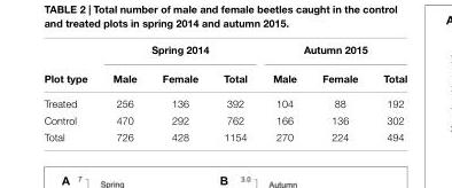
<table><thead><tr><td rowspan="2">Plot type</td><td colspan="3">Spring 2014</td><td colspan="3">Autumn 2015</td></tr><tr><td>Male</td><td>Female</td><td>Total</td><td>Male</td><td>Female</td><td>Total</td></tr></thead><tbody><tr><td>Treated</td><td>256</td><td>136</td><td>392</td><td>104</td><td>88</td><td>192</td></tr><tr><td>Control</td><td>470</td><td>292</td><td>762</td><td>166</td><td>136</td><td>302</td></tr><tr><td>Total</td><td>726</td><td>428</td><td>1154</td><td>270</td><td>224</td><td>494</td></tr></tbody></table>